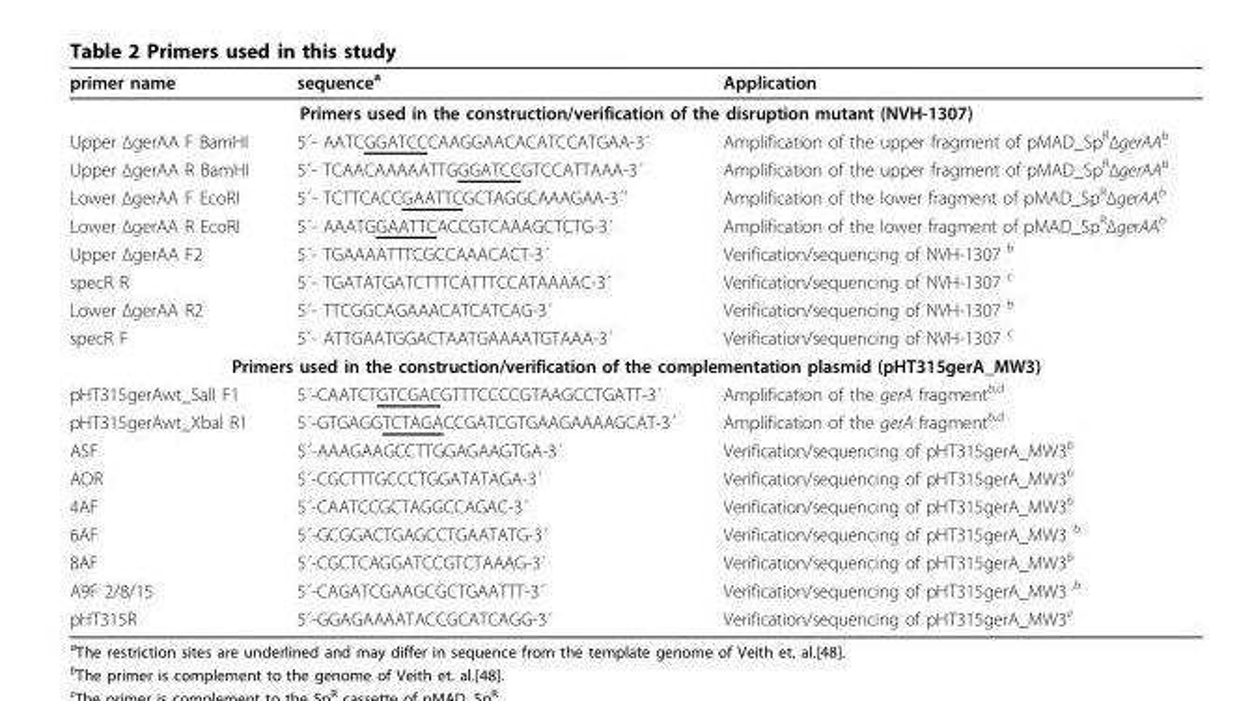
<table><thead><tr><td>primer name</td><td>sequence<sup>a</sup></td><td>Application</td></tr></thead><tbody><tr><td colspan="3">Primers used in the construction/verification of the disruption mutant (NVH-1307)</td></tr><tr><td>Upper ΔgerAA F BamHI</td><td>5´- AATCGGATCCCAAGGAACACATCCATGAA-3´</td><td>Amplification of the upper fragment of pMAD_Sp<sup>R</sup>ΔgerAA<sup>b</sup></td></tr><tr><td>Upper ΔgerAA R BamHI</td><td>5´- TCAACAAAAATTGGGATCCGTCCATTAAA-3´</td><td>Amplification of the upper fragment of pMAD_Sp<sup>R</sup>ΔgerAA<sup>b</sup></td></tr><tr><td>Lower ΔgerAA F EcoRI</td><td>5´- TCTTCACCGAATTCGCTAGGCAAAGAA-3´’</td><td>Amplification of the lower fragment of pMAD_Sp<sup>R</sup>ΔgerAA<sup>b</sup></td></tr><tr><td>Lower ΔgerAA R EcoRI</td><td>5´- AAATGGAATTCACCGTCAAAGCTCTG-3´</td><td>Amplification of the lower fragment of pMAD_Sp<sup>R</sup>ΔgerAA<sup>b</sup></td></tr><tr><td>Upper ΔgerAA F2</td><td>5´- TGAAAATTTCGCCAAACACT-3´</td><td>Verification/sequencing of NVH-1307 <sup>b</sup></td></tr><tr><td>specR R</td><td>5´- TGATATGATCTTTCATTTCCATAAAAC-3´</td><td>Verification/sequencing of NVH-1307 <sup>c</sup></td></tr><tr><td>Lower ΔgerAA R2</td><td>5´- TTCGGCAGAAACATCATCAG-3´</td><td>Verification/sequencing of NVH-1307 <sup>b</sup></td></tr><tr><td>specR F</td><td>5´- ATTGAATGGACTAATGAAAATGTAAA-3´</td><td>Verification/sequencing of NVH-1307 <sup>c</sup></td></tr><tr><td colspan="3">Primers used in the construction/verification of the complementation plasmid (pHT315gerA_MW3)</td></tr><tr><td>pHT315gerAwt_SalI F1</td><td>5´-CAATCTGTCGACGTTTCCCCGTAAGCCTGATT-3´</td><td>Amplification of the gerA fragment<sup>b,d</sup></td></tr><tr><td>pHT315gerAwt_XbaI R1</td><td>5´-GTGAGGTCTAGACCGATCGTGAAGAAAAGCAT-3´</td><td>Amplification of the gerA fragment<sup>b,d</sup></td></tr><tr><td>ASF</td><td>5´-AAAGAAGCCTTGGAGAAGTGA-3´</td><td>Verification/sequencing of pHT315gerA_MW3<sup>b</sup></td></tr><tr><td>AOR</td><td>5´-CGCTTTGCCCTGGATATAGA-3´</td><td>Verification/sequencing of pHT315gerA_MW3<sup>b</sup></td></tr><tr><td>4AF</td><td>5´-CAATCCGCTAGGCCAGAC-3´</td><td>Verification/sequencing of pHT315gerA_MW3<sup>b</sup></td></tr><tr><td>6AF</td><td>5´-GCGGACTGAGCCTGAATATG-3´</td><td>Verification/sequencing of pHT315gerA_MW3 <sup>b</sup></td></tr><tr><td>8AF</td><td>5´-CGCTCAGGATCCGTCTAAAG-3´</td><td>Verification/sequencing of pHT315gerA_MW3<sup>b</sup></td></tr><tr><td>A9F 2/8/15</td><td>5´-CAGATCGAAGCGCTGAATTT-3´</td><td>Verification/sequencing of pHT315gerA_MW3 <sup>b</sup></td></tr><tr><td>pHT315R</td><td>5´-GGAGAAAATACCGCATCAGG-3´</td><td>Verification/sequencing of pHT315gerA_MW3<sup>e</sup></td></tr></tbody></table>